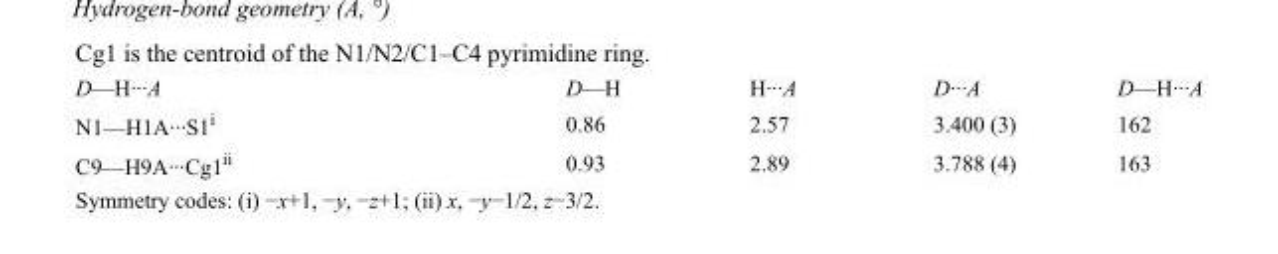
<table><tbody><tr><td>D—H···A</td><td>D—H</td><td>H···A</td><td>D···A</td><td>D—H···A</td></tr><tr><td>N1—H1A···S1<sup>i</sup></td><td>0.86</td><td>2.57</td><td>3.400 (3)</td><td>162</td></tr><tr><td>C9—H9A···Cg1<sup>ii</sup></td><td>0.93</td><td>2.89</td><td>3.788 (4)</td><td>163</td></tr></tbody></table>